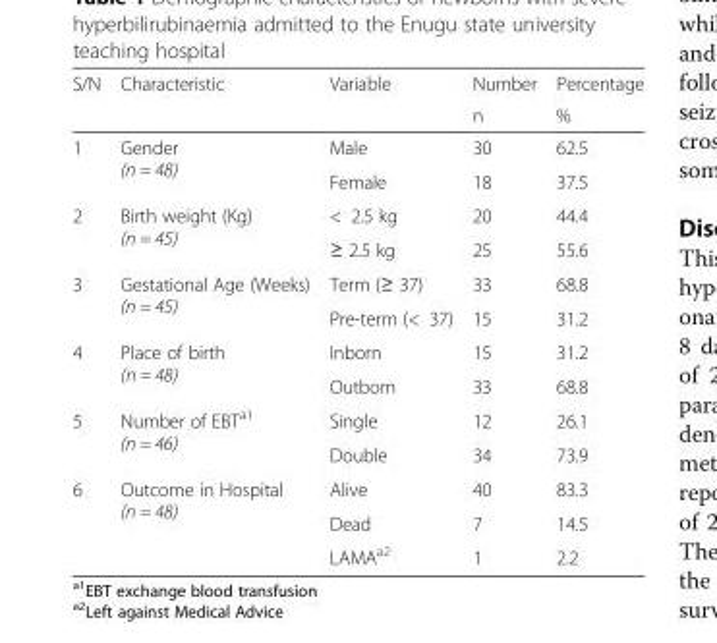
<table><thead><tr><td rowspan="2">S/N</td><td rowspan="2">Characteristic</td><td rowspan="2">Variable</td><td rowspan="2">Number n</td><td rowspan="2">Percentage %</td></tr><tr></tr></thead><tbody><tr><td rowspan="2">1</td><td rowspan="2">Gender (n = 48)</td><td>Male</td><td>30</td><td>62.5</td></tr><tr><td>Female</td><td>18</td><td>37.5</td></tr><tr><td rowspan="2">2</td><td rowspan="2">Birth weight (Kg) (n = 45)</td><td>&lt; 2.5 kg</td><td>20</td><td>44.4</td></tr><tr><td>≥ 2.5 kg</td><td>25</td><td>55.6</td></tr><tr><td rowspan="2">3</td><td rowspan="2">Gestational Age (Weeks) (n = 45)</td><td>Term (≥ 37)</td><td>33</td><td>68.8</td></tr><tr><td>Pre-term (&lt; 37)</td><td>15</td><td>31.2</td></tr><tr><td rowspan="2">4</td><td rowspan="2">Place of birth (n = 48)</td><td>Inborn</td><td>15</td><td>31.2</td></tr><tr><td>Outborn</td><td>33</td><td>68.8</td></tr><tr><td rowspan="2">5</td><td rowspan="2">Number of EBT<sup>a1</sup> (n = 46)</td><td>Single</td><td>12</td><td>26.1</td></tr><tr><td>Double</td><td>34</td><td>73.9</td></tr><tr><td rowspan="3">6</td><td rowspan="3">Outcome in Hospital (n = 48)</td><td>Alive</td><td>40</td><td>83.3</td></tr><tr><td>Dead</td><td>7</td><td>14.5</td></tr><tr><td>LAMA<sup>a2</sup></td><td>1</td><td>2.2</td></tr></tbody></table>